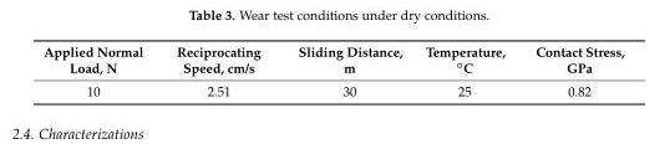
<table><thead><tr><td>Applied Normal Load, N</td><td>Reciprocating Speed, cm/s</td><td>Sliding Distance, m</td><td>Temperature, ◦C</td><td>Contact Stress, GPa</td></tr></thead><tbody><tr><td>10</td><td>2.51</td><td>30</td><td>25</td><td>0.82</td></tr></tbody></table>